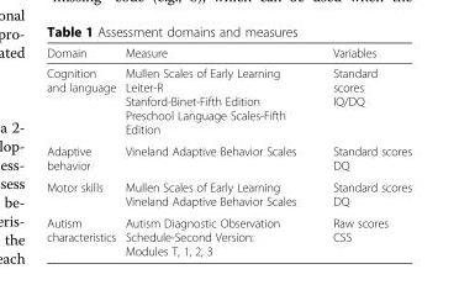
<table><thead><tr><td>Domain</td><td>Measure</td><td>Variables</td></tr></thead><tbody><tr><td>Cognition and language</td><td>Mullen Scales of Early Learning Leiter-R Stanford-Binet-Fifth Edition Preschool Language Scales-Fifth Edition</td><td>Standard scores IQ/DQ</td></tr><tr><td>Adaptive behavior</td><td>Vineland Adaptive Behavior Scales</td><td>Standard scores DQ</td></tr><tr><td>Motor skills</td><td>Mullen Scales of Early Learning Vineland Adaptive Behavior Scales</td><td>Standard scores DQ</td></tr><tr><td>Autism characteristics</td><td>Autism Diagnostic Observation Schedule-Second Version: Modules T, 1, 2, 3</td><td>Raw scores CSS</td></tr></tbody></table>